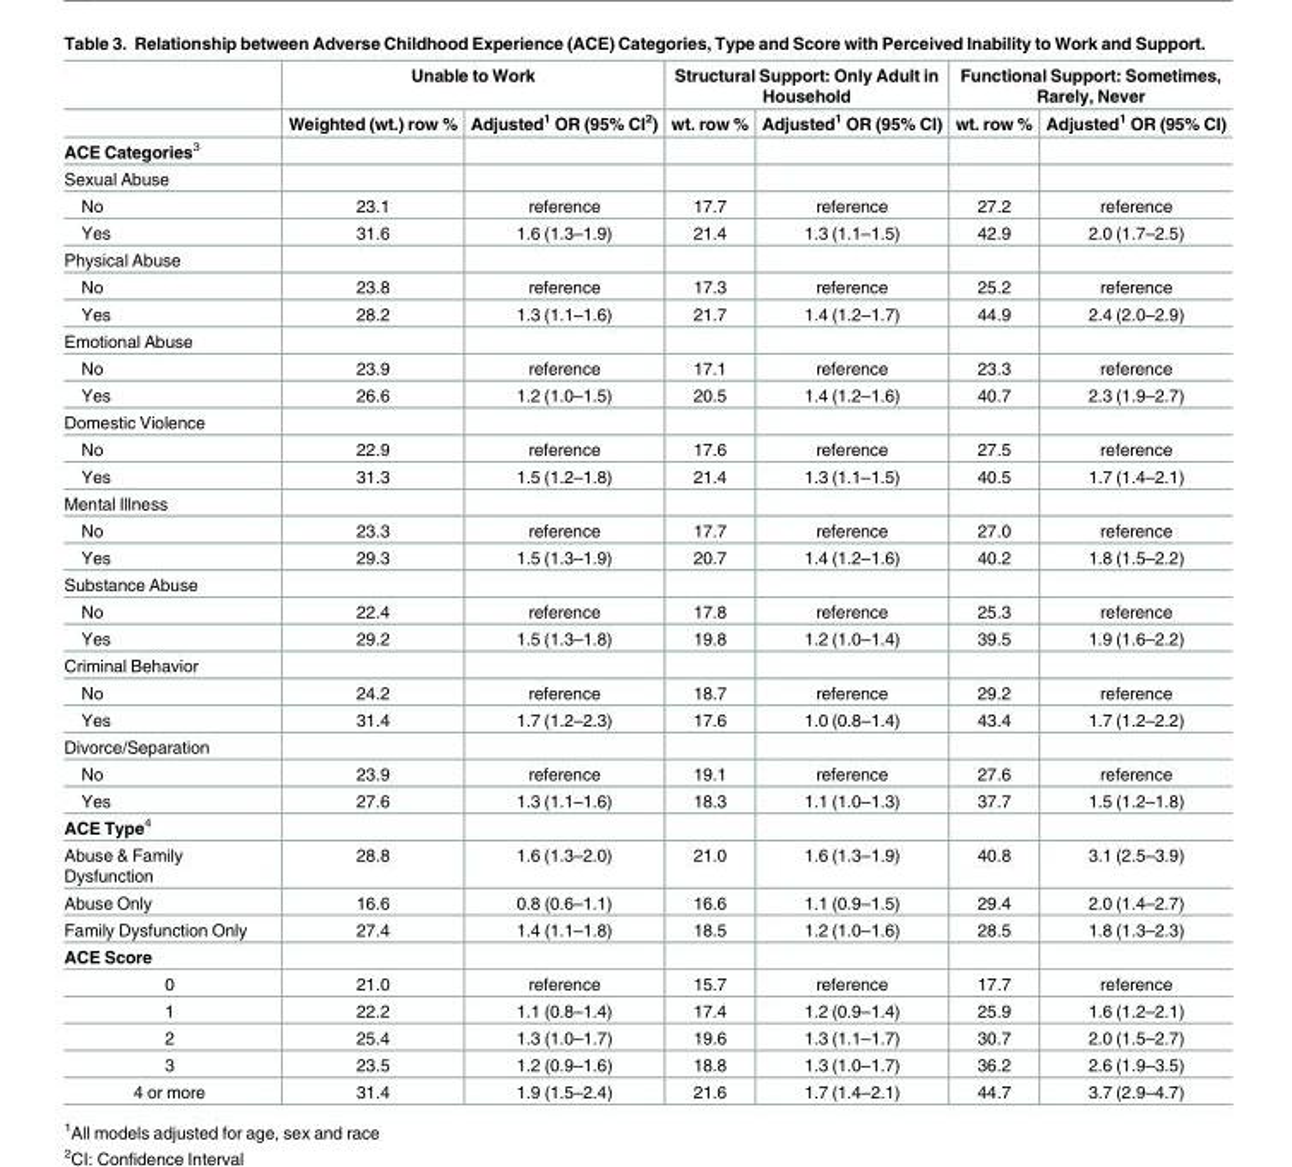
<table><thead><tr><td rowspan="2"></td><td colspan="2">Unable to Work</td><td colspan="2">Structural Support: Only Adult in Household</td><td colspan="2">Functional Support: Sometimes, Rarely, Never</td></tr><tr><td>Weighted (wt.) row %</td><td>Adjusted<sup>1</sup> OR (95% CI<sup>2</sup>)</td><td>wt. row %</td><td>Adjusted<sup>1</sup> OR (95% CI)</td><td>wt. row %</td><td>Adjusted<sup>1</sup> OR (95% CI)</td></tr></thead><tbody><tr><td colspan="7">ACE Categories<sup>3</sup></td></tr><tr><td colspan="7">Sexual Abuse</td></tr><tr><td>No</td><td>23.1</td><td>reference</td><td>17.7</td><td>reference</td><td>27.2</td><td>reference</td></tr><tr><td>Yes</td><td>31.6</td><td>1.6 (1.3–1.9)</td><td>21.4</td><td>1.3 (1.1–1.5)</td><td>42.9</td><td>2.0 (1.7–2.5)</td></tr><tr><td colspan="7">Physical Abuse</td></tr><tr><td>No</td><td>23.8</td><td>reference</td><td>17.3</td><td>reference</td><td>25.2</td><td>reference</td></tr><tr><td>Yes</td><td>28.2</td><td>1.3 (1.1–1.6)</td><td>21.7</td><td>1.4 (1.2–1.7)</td><td>44.9</td><td>2.4 (2.0–2.9)</td></tr><tr><td colspan="7">Emotional Abuse</td></tr><tr><td>No</td><td>23.9</td><td>reference</td><td>17.1</td><td>reference</td><td>23.3</td><td>reference</td></tr><tr><td>Yes</td><td>26.6</td><td>1.2 (1.0–1.5)</td><td>20.5</td><td>1.4 (1.2–1.6)</td><td>40.7</td><td>2.3 (1.9–2.7)</td></tr><tr><td colspan="7">Domestic Violence</td></tr><tr><td>No</td><td>22.9</td><td>reference</td><td>17.6</td><td>reference</td><td>27.5</td><td>reference</td></tr><tr><td>Yes</td><td>31.3</td><td>1.5 (1.2–1.8)</td><td>21.4</td><td>1.3 (1.1–1.5)</td><td>40.5</td><td>1.7 (1.4–2.1)</td></tr><tr><td colspan="7">Mental Illness</td></tr><tr><td>No</td><td>23.3</td><td>reference</td><td>17.7</td><td>reference</td><td>27.0</td><td>reference</td></tr><tr><td>Yes</td><td>29.3</td><td>1.5 (1.3–1.9)</td><td>20.7</td><td>1.4 (1.2–1.6)</td><td>40.2</td><td>1.8 (1.5–2.2)</td></tr><tr><td colspan="7">Substance Abuse</td></tr><tr><td>No</td><td>22.4</td><td>reference</td><td>17.8</td><td>reference</td><td>25.3</td><td>reference</td></tr><tr><td>Yes</td><td>29.2</td><td>1.5 (1.3–1.8)</td><td>19.8</td><td>1.2 (1.0–1.4)</td><td>39.5</td><td>1.9 (1.6–2.2)</td></tr><tr><td colspan="7">Criminal Behavior</td></tr><tr><td>No</td><td>24.2</td><td>reference</td><td>18.7</td><td>reference</td><td>29.2</td><td>reference</td></tr><tr><td>Yes</td><td>31.4</td><td>1.7 (1.2–2.3)</td><td>17.6</td><td>1.0 (0.8–1.4)</td><td>43.4</td><td>1.7 (1.2–2.2)</td></tr><tr><td colspan="7">Divorce/Separation</td></tr><tr><td>No</td><td>23.9</td><td>reference</td><td>19.1</td><td>reference</td><td>27.6</td><td>reference</td></tr><tr><td>Yes</td><td>27.6</td><td>1.3 (1.1–1.6)</td><td>18.3</td><td>1.1 (1.0–1.3)</td><td>37.7</td><td>1.5 (1.2–1.8)</td></tr><tr><td colspan="7">ACE Type<sup>4</sup></td></tr><tr><td>Abuse &amp; Family Dysfunction</td><td>28.8</td><td>1.6 (1.3–2.0)</td><td>21.0</td><td>1.6 (1.3–1.9)</td><td>40.8</td><td>3.1 (2.5–3.9)</td></tr><tr><td>Abuse Only</td><td>16.6</td><td>0.8 (0.6–1.1)</td><td>16.6</td><td>1.1 (0.9–1.5)</td><td>29.4</td><td>2.0 (1.4–2.7)</td></tr><tr><td>Family Dysfunction Only</td><td>27.4</td><td>1.4 (1.1–1.8)</td><td>18.5</td><td>1.2 (1.0–1.6)</td><td>28.5</td><td>1.8 (1.3–2.3)</td></tr><tr><td colspan="7">ACE Score</td></tr><tr><td>0</td><td>21.0</td><td>reference</td><td>15.7</td><td>reference</td><td>17.7</td><td>reference</td></tr><tr><td>1</td><td>22.2</td><td>1.1 (0.8–1.4)</td><td>17.4</td><td>1.2 (0.9–1.4)</td><td>25.9</td><td>1.6 (1.2–2.1)</td></tr><tr><td>2</td><td>25.4</td><td>1.3 (1.0–1.7)</td><td>19.6</td><td>1.3 (1.1–1.7)</td><td>30.7</td><td>2.0 (1.5–2.7)</td></tr><tr><td>3</td><td>23.5</td><td>1.2 (0.9–1.6)</td><td>18.8</td><td>1.3 (1.0–1.7)</td><td>36.2</td><td>2.6 (1.9–3.5)</td></tr><tr><td>4 or more</td><td>31.4</td><td>1.9 (1.5–2.4)</td><td>21.6</td><td>1.7 (1.4–2.1)</td><td>44.7</td><td>3.7 (2.9–4.7)</td></tr></tbody></table>